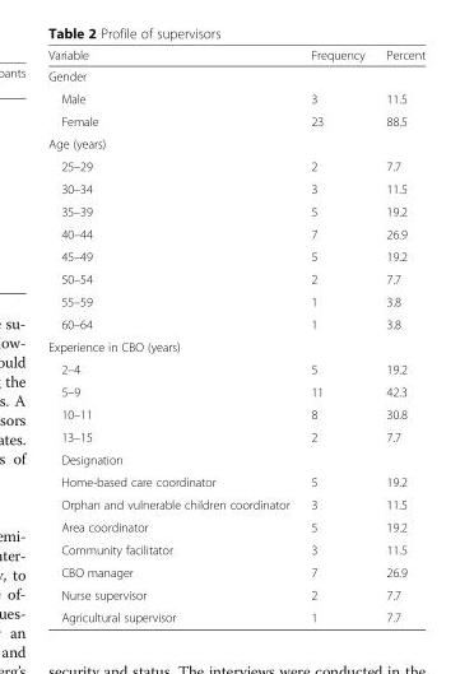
<table><thead><tr><td>Variable</td><td>Frequency</td><td>Percent</td></tr></thead><tbody><tr><td colspan="3">Gender</td></tr><tr><td>Male</td><td>3</td><td>11.5</td></tr><tr><td>Female</td><td>23</td><td>88.5</td></tr><tr><td colspan="3">Age (years)</td></tr><tr><td>25–29</td><td>2</td><td>7.7</td></tr><tr><td>30–34</td><td>3</td><td>11.5</td></tr><tr><td>35–39</td><td>5</td><td>19.2</td></tr><tr><td>40–44</td><td>7</td><td>26.9</td></tr><tr><td>45–49</td><td>5</td><td>19.2</td></tr><tr><td>50–54</td><td>2</td><td>7.7</td></tr><tr><td>55–59</td><td>1</td><td>3.8</td></tr><tr><td>60–64</td><td>1</td><td>3.8</td></tr><tr><td colspan="3">Experience in CBO (years)</td></tr><tr><td>2–4</td><td>5</td><td>19.2</td></tr><tr><td>5–9</td><td>11</td><td>42.3</td></tr><tr><td>10–11</td><td>8</td><td>30.8</td></tr><tr><td>13–15</td><td>2</td><td>7.7</td></tr><tr><td colspan="3">Designation</td></tr><tr><td>Home-based care coordinator</td><td>5</td><td>19.2</td></tr><tr><td>Orphan and vulnerable children coordinator</td><td>3</td><td>11.5</td></tr><tr><td>Area coordinator</td><td>5</td><td>19.2</td></tr><tr><td>Community facilitator</td><td>3</td><td>11.5</td></tr><tr><td>CBO manager</td><td>7</td><td>26.9</td></tr><tr><td>Nurse supervisor</td><td>2</td><td>7.7</td></tr><tr><td>Agricultural supervisor</td><td>1</td><td>7.7</td></tr></tbody></table>